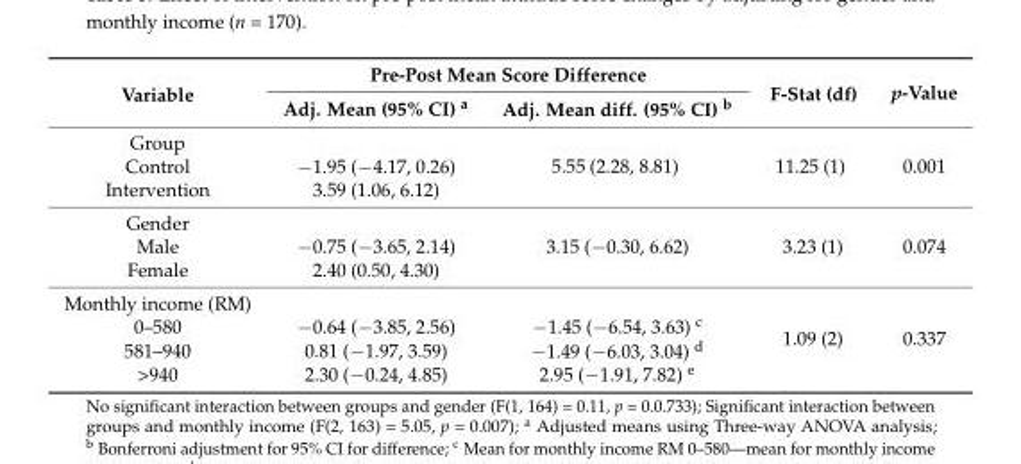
<table><thead><tr><td rowspan="2">Variable</td><td colspan="2">Pre-Post Mean Score Difference</td><td rowspan="2">F-Stat (df)</td><td rowspan="2">p-Value</td></tr><tr><td>Adj. Mean (95% CI) <sup>a</sup></td><td>Adj. Mean diff. (95% CI) <sup>b</sup></td></tr></thead><tbody><tr><td>Group Control Intervention</td><td>−1.95 (−4.17, 0.26) 3.59 (1.06, 6.12)</td><td>5.55 (2.28, 8.81)</td><td>11.25 (1)</td><td>0.001</td></tr><tr><td>Gender Male Female</td><td>−0.75 (−3.65, 2.14) 2.40 (0.50, 4.30)</td><td>3.15 (−0.30, 6.62)</td><td>3.23 (1)</td><td>0.074</td></tr><tr><td>Monthly income (RM) 0–580 581–940 &gt;940</td><td>−0.64 (−3.85, 2.56) 0.81 (−1.97, 3.59) 2.30 (−0.24, 4.85)</td><td>−1.45 (−6.54, 3.63) <sup>c</sup> −1.49 (−6.03, 3.04) <sup>d</sup> 2.95 (−1.91, 7.82) <sup>e</sup></td><td>1.09 (2)</td><td>0.337</td></tr></tbody></table>